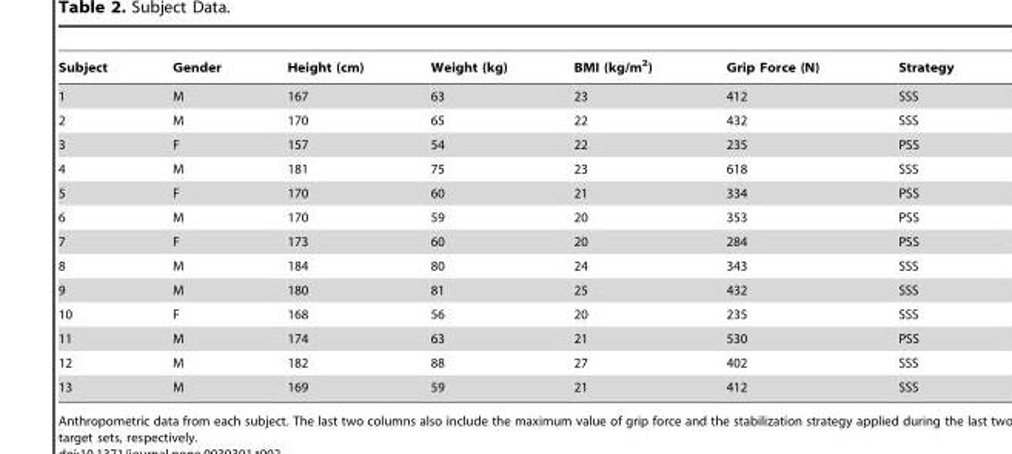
<table><thead><tr><td>Subject</td><td>Gender</td><td>Height (cm)</td><td>Weight (kg)</td><td>BMI (kg/m<sup>2</sup>)</td><td>Grip Force (N)</td><td>Strategy</td></tr></thead><tbody><tr><td>1</td><td>M</td><td>167</td><td>63</td><td>23</td><td>412</td><td>SSS</td></tr><tr><td>2</td><td>M</td><td>170</td><td>65</td><td>22</td><td>432</td><td>SSS</td></tr><tr><td>3</td><td>F</td><td>157</td><td>54</td><td>22</td><td>235</td><td>PSS</td></tr><tr><td>4</td><td>M</td><td>181</td><td>75</td><td>23</td><td>618</td><td>SSS</td></tr><tr><td>5</td><td>F</td><td>170</td><td>60</td><td>21</td><td>334</td><td>PSS</td></tr><tr><td>6</td><td>M</td><td>170</td><td>59</td><td>20</td><td>353</td><td>PSS</td></tr><tr><td>7</td><td>F</td><td>173</td><td>60</td><td>20</td><td>284</td><td>PSS</td></tr><tr><td>8</td><td>M</td><td>184</td><td>80</td><td>24</td><td>343</td><td>SSS</td></tr><tr><td>9</td><td>M</td><td>180</td><td>81</td><td>25</td><td>432</td><td>SSS</td></tr><tr><td>10</td><td>F</td><td>168</td><td>56</td><td>20</td><td>235</td><td>SSS</td></tr><tr><td>11</td><td>M</td><td>174</td><td>63</td><td>21</td><td>530</td><td>PSS</td></tr><tr><td>12</td><td>M</td><td>182</td><td>88</td><td>27</td><td>402</td><td>SSS</td></tr><tr><td>13</td><td>M</td><td>169</td><td>59</td><td>21</td><td>412</td><td>SSS</td></tr></tbody></table>